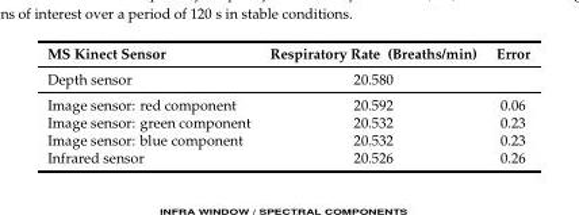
<table><thead><tr><td>MS Kinect Sensor</td><td>Respiratory Rate (Breaths/min)</td><td>Error</td></tr></thead><tbody><tr><td>Depth sensor</td><td>20.580</td><td></td></tr><tr><td>Image sensor: red component</td><td>20.592</td><td>0.06</td></tr><tr><td>Image sensor: green component</td><td>20.532</td><td>0.23</td></tr><tr><td>Image sensor: blue component</td><td>20.532</td><td>0.23</td></tr><tr><td>Infrared sensor</td><td>20.526</td><td>0.26</td></tr></tbody></table>